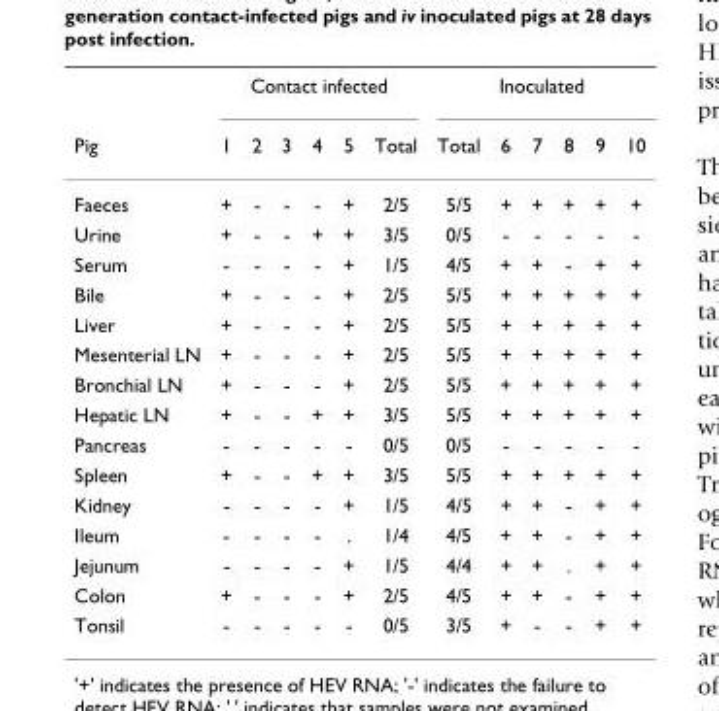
<table><thead><tr><td rowspan="2">Pig</td><td colspan="6">Contact infected</td><td colspan="6">Inoculated</td></tr><tr><td>1</td><td>2</td><td>3</td><td>4</td><td>5</td><td>Total</td><td>Total</td><td>6</td><td>7</td><td>8</td><td>9</td><td>10</td></tr></thead><tbody><tr><td>Faeces</td><td>+</td><td>-</td><td>-</td><td>-</td><td>+</td><td>2/5</td><td>5/5</td><td>+</td><td>+</td><td>+</td><td>+</td><td>+</td></tr><tr><td>Urine</td><td>+</td><td>-</td><td>-</td><td>+</td><td>+</td><td>3/5</td><td>0/5</td><td>-</td><td>-</td><td>-</td><td>-</td><td>-</td></tr><tr><td>Serum</td><td>-</td><td>-</td><td>-</td><td>-</td><td>+</td><td>1/5</td><td>4/5</td><td>+</td><td>+</td><td>-</td><td>+</td><td>+</td></tr><tr><td>Bile</td><td>+</td><td>-</td><td>-</td><td>-</td><td>+</td><td>2/5</td><td>5/5</td><td>+</td><td>+</td><td>+</td><td>+</td><td>+</td></tr><tr><td>Liver</td><td>+</td><td>-</td><td>-</td><td>-</td><td>+</td><td>2/5</td><td>5/5</td><td>+</td><td>+</td><td>+</td><td>+</td><td>+</td></tr><tr><td>Mesenterial LN</td><td>+</td><td>-</td><td>-</td><td>-</td><td>+</td><td>2/5</td><td>5/5</td><td>+</td><td>+</td><td>+</td><td>+</td><td>+</td></tr><tr><td>Bronchial LN</td><td>+</td><td>-</td><td>-</td><td>-</td><td>+</td><td>2/5</td><td>5/5</td><td>+</td><td>+</td><td>+</td><td>+</td><td>+</td></tr><tr><td>Hepatic LN</td><td>+</td><td>-</td><td>-</td><td>+</td><td>+</td><td>3/5</td><td>5/5</td><td>+</td><td>+</td><td>+</td><td>+</td><td>+</td></tr><tr><td>Pancreas</td><td>-</td><td>-</td><td>-</td><td>-</td><td>-</td><td>0/5</td><td>0/5</td><td>-</td><td>-</td><td>-</td><td>-</td><td>-</td></tr><tr><td>Spleen</td><td>+</td><td>-</td><td>-</td><td>+</td><td>+</td><td>3/5</td><td>5/5</td><td>+</td><td>+</td><td>+</td><td>+</td><td>+</td></tr><tr><td>Kidney</td><td>-</td><td>-</td><td>-</td><td>-</td><td>+</td><td>1/5</td><td>4/5</td><td>+</td><td>+</td><td>-</td><td>+</td><td>+</td></tr><tr><td>Ileum</td><td>-</td><td>-</td><td>-</td><td>-</td><td>.</td><td>1/4</td><td>4/5</td><td>+</td><td>+</td><td>-</td><td>+</td><td>+</td></tr><tr><td>Jejunum</td><td>-</td><td>-</td><td>-</td><td>-</td><td>+</td><td>1/5</td><td>4/4</td><td>+</td><td>+</td><td>.</td><td>+</td><td>+</td></tr><tr><td>Colon</td><td>+</td><td>-</td><td>-</td><td>-</td><td>+</td><td>2/5</td><td>4/5</td><td>+</td><td>+</td><td>-</td><td>+</td><td>+</td></tr><tr><td>Tonsil</td><td>-</td><td>-</td><td>-</td><td>-</td><td>-</td><td>0/5</td><td>3/5</td><td>+</td><td>-</td><td>-</td><td>+</td><td>+</td></tr></tbody></table>